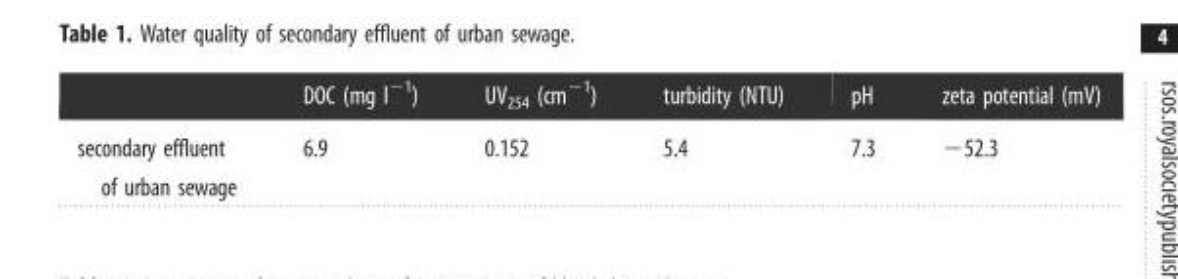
<table><thead><tr><td></td><td>DOC (mg l<sup>−1</sup>)</td><td>UV<sub>254</sub> (cm<sup>−1</sup>)</td><td>turbidity (NTU)</td><td>pH</td><td>zeta potential (mV)</td></tr></thead><tbody><tr><td>secondary effluent of urban sewage</td><td>6.9</td><td>0.152</td><td>5.4</td><td>7.3</td><td>−52.3</td></tr></tbody></table>